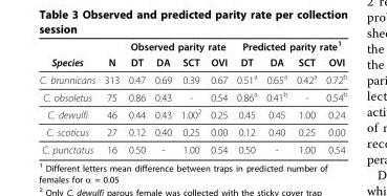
<table><thead><tr><td rowspan="2">Species</td><td rowspan="2">N</td><td colspan="4">Observed parity rate</td><td colspan="4">Predicted parity rate<sup>1</sup></td></tr><tr><td>DT</td><td>DA</td><td>SCT</td><td>OVI</td><td>DT</td><td>DA</td><td>SCT</td><td>OVI</td></tr></thead><tbody><tr><td>C. brunnicans</td><td>313</td><td>0.47</td><td>0.69</td><td>0.39</td><td>0.67</td><td>0.51<sup>a</sup></td><td>0.65<sup>a</sup></td><td>0.42<sup>a</sup></td><td>0.72<sup>b</sup></td></tr><tr><td>C. obsoletus</td><td>75</td><td>0.86</td><td>0.43</td><td>-</td><td>0.54</td><td>0.86<sup>a</sup></td><td>0.41<sup>b</sup></td><td>-</td><td>0.54<sup>b</sup></td></tr><tr><td>C. dewulfi</td><td>46</td><td>0.44</td><td>0.43</td><td>1.00<sup>2</sup></td><td>0.25</td><td>0.45</td><td>0.45</td><td>1.00</td><td>0.24</td></tr><tr><td>C. scoticus</td><td>27</td><td>0.12</td><td>0.40</td><td>0.25</td><td>0.00</td><td>0.12</td><td>0.40</td><td>0.25</td><td>0.00</td></tr><tr><td>C. punctatus</td><td>16</td><td>0.50</td><td>-</td><td>1.00</td><td>0.54</td><td>0.50</td><td>-</td><td>1.00</td><td>0.54</td></tr></tbody></table>